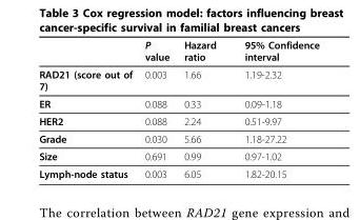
<table><thead><tr><td></td><td>P value</td><td>Hazard ratio</td><td>95% Confidence interval</td></tr></thead><tbody><tr><td>RAD21 (score out of 7)</td><td>0.003</td><td>1.66</td><td>1.19-2.32</td></tr><tr><td>ER</td><td>0.088</td><td>0.33</td><td>0.09-1.18</td></tr><tr><td>HER2</td><td>0.088</td><td>2.24</td><td>0.51-9.97</td></tr><tr><td>Grade</td><td>0.030</td><td>5.66</td><td>1.18-27.22</td></tr><tr><td>Size</td><td>0.691</td><td>0.99</td><td>0.97-1.02</td></tr><tr><td>Lymph-node status</td><td>0.003</td><td>6.05</td><td>1.82-20.15</td></tr></tbody></table>